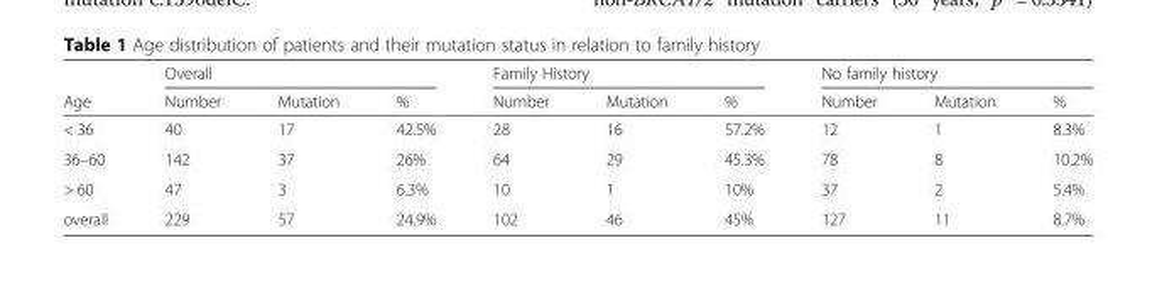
<table><thead><tr><td rowspan="2">Age</td><td colspan="3">Overall</td><td colspan="3">Family History</td><td colspan="3">No family history</td></tr><tr><td>Number</td><td>Mutation</td><td>%</td><td>Number</td><td>Mutation</td><td>%</td><td>Number</td><td>Mutation</td><td>%</td></tr></thead><tbody><tr><td>&lt; 36</td><td>40</td><td>17</td><td>42.5%</td><td>28</td><td>16</td><td>57.2%</td><td>12</td><td>1</td><td>8.3%</td></tr><tr><td>36–60</td><td>142</td><td>37</td><td>26%</td><td>64</td><td>29</td><td>45.3%</td><td>78</td><td>8</td><td>10.2%</td></tr><tr><td>&gt; 60</td><td>47</td><td>3</td><td>6.3%</td><td>10</td><td>1</td><td>10%</td><td>37</td><td>2</td><td>5.4%</td></tr><tr><td>overall</td><td>229</td><td>57</td><td>24.9%</td><td>102</td><td>46</td><td>45%</td><td>127</td><td>11</td><td>8.7%</td></tr></tbody></table>